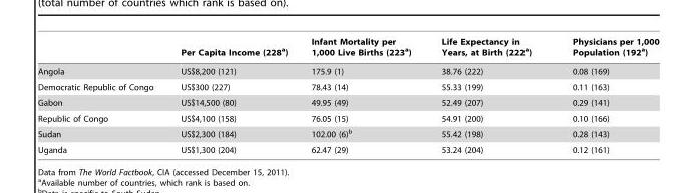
<table><thead><tr><td></td><td>Per Capita Income (228<sup>a</sup>)</td><td>Infant Mortality per 1,000 Live Births (223<sup>a</sup>)</td><td>Life Expectancy in Years, at Birth (222<sup>a</sup>)</td><td>Physicians per 1,000 Population (192<sup>a</sup>)</td></tr></thead><tbody><tr><td>Angola</td><td>US$8,200 (121)</td><td>175.9 (1)</td><td>38.76 (222)</td><td>0.08 (169)</td></tr><tr><td>Democratic Republic of Congo</td><td>US$300 (227)</td><td>78.43 (14)</td><td>55.33 (199)</td><td>0.11 (163)</td></tr><tr><td>Gabon</td><td>US$14,500 (80)</td><td>49.95 (49)</td><td>52.49 (207)</td><td>0.29 (141)</td></tr><tr><td>Republic of Congo</td><td>US$4,100 (158)</td><td>76.05 (15)</td><td>54.91 (200)</td><td>0.10 (166)</td></tr><tr><td>Sudan</td><td>US$2,300 (184)</td><td>102.00 (6)<sup>b</sup></td><td>55.42 (198)</td><td>0.28 (143)</td></tr><tr><td>Uganda</td><td>US$1,300 (204)</td><td>62.47 (29)</td><td>53.24 (204)</td><td>0.12 (161)</td></tr></tbody></table>